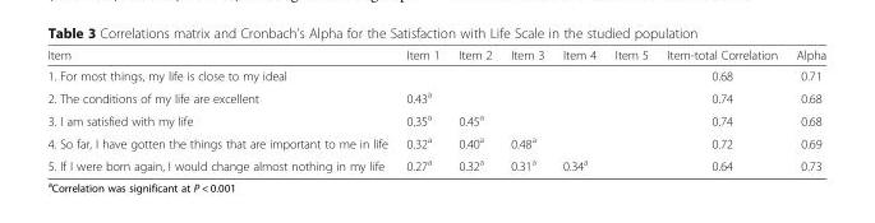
<table><thead><tr><td>Item</td><td>Item 1</td><td>Item 2</td><td>Item 3</td><td>Item 4</td><td>Item 5</td><td>Item-total Correlation</td><td>Alpha</td></tr></thead><tbody><tr><td>1. For most things, my life is close to my ideal</td><td></td><td></td><td></td><td></td><td></td><td>0.68</td><td>0.71</td></tr><tr><td>2. The conditions of my life are excellent</td><td>0.43<sup>a</sup></td><td></td><td></td><td></td><td></td><td>0.74</td><td>0.68</td></tr><tr><td>3. I am satisfied with my life</td><td>0.35<sup>a</sup></td><td>0.45<sup>a</sup></td><td></td><td></td><td></td><td>0.74</td><td>0.68</td></tr><tr><td>4. So far, I have gotten the things that are important to me in life</td><td>0.32<sup>a</sup></td><td>0.40<sup>a</sup></td><td>0.48<sup>a</sup></td><td></td><td></td><td>0.72</td><td>0.69</td></tr><tr><td>5. If I were born again, I would change almost nothing in my life</td><td>0.27<sup>a</sup></td><td>0.32<sup>a</sup></td><td>0.31<sup>a</sup></td><td>0.34<sup>a</sup></td><td></td><td>0.64</td><td>0.73</td></tr></tbody></table>